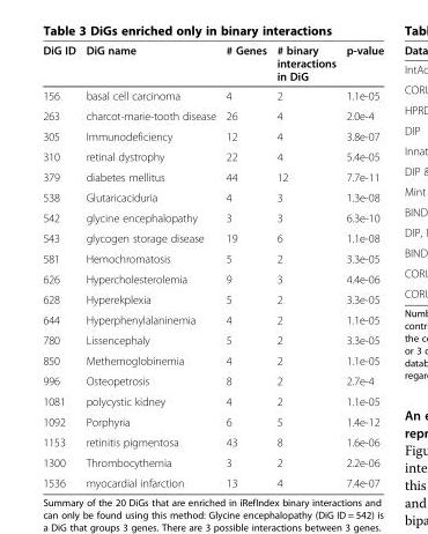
<table><thead><tr><td>DiG ID</td><td>DiG name</td><td># Genes</td><td># binary interactions in DiG</td><td>p-value</td></tr></thead><tbody><tr><td>156</td><td>basal cell carcinoma</td><td>4</td><td>2</td><td>1.1e-05</td></tr><tr><td>263</td><td>charcot-marie-tooth disease</td><td>26</td><td>4</td><td>2.0e-4</td></tr><tr><td>305</td><td>Immunodeficiency</td><td>12</td><td>4</td><td>3.8e-07</td></tr><tr><td>310</td><td>retinal dystrophy</td><td>22</td><td>4</td><td>5.4e-05</td></tr><tr><td>379</td><td>diabetes mellitus</td><td>44</td><td>12</td><td>7.7e-11</td></tr><tr><td>538</td><td>Glutaricaciduria</td><td>4</td><td>3</td><td>1.3e-08</td></tr><tr><td>542</td><td>glycine encephalopathy</td><td>3</td><td>3</td><td>6.3e-10</td></tr><tr><td>543</td><td>glycogen storage disease</td><td>19</td><td>6</td><td>1.1e-08</td></tr><tr><td>581</td><td>Hemochromatosis</td><td>5</td><td>2</td><td>3.3e-05</td></tr><tr><td>626</td><td>Hypercholesterolemia</td><td>9</td><td>3</td><td>4.4e-06</td></tr><tr><td>628</td><td>Hyperekplexia</td><td>5</td><td>2</td><td>3.3e-05</td></tr><tr><td>644</td><td>Hyperphenylalaninemia</td><td>4</td><td>2</td><td>1.1e-05</td></tr><tr><td>780</td><td>Lissencephaly</td><td>5</td><td>2</td><td>3.3e-05</td></tr><tr><td>850</td><td>Methemoglobinemia</td><td>4</td><td>2</td><td>1.1e-05</td></tr><tr><td>996</td><td>Osteopetrosis</td><td>8</td><td>2</td><td>2.7e-4</td></tr><tr><td>1081</td><td>polycystic kidney</td><td>4</td><td>2</td><td>1.1e-05</td></tr><tr><td>1092</td><td>Porphyria</td><td>6</td><td>5</td><td>1.4e-12</td></tr><tr><td>1153</td><td>retinitis pigmentosa</td><td>43</td><td>8</td><td>1.6e-06</td></tr><tr><td>1300</td><td>Thrombocythemia</td><td>3</td><td>2</td><td>2.2e-06</td></tr><tr><td>1536</td><td>myocardial infarction</td><td>13</td><td>4</td><td>7.4e-07</td></tr></tbody></table>